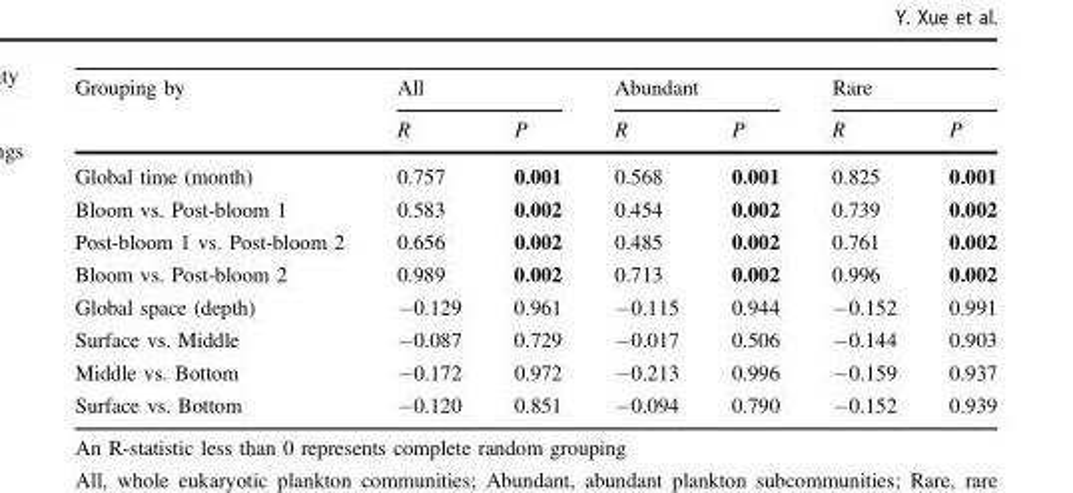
<table><thead><tr><td rowspan="2">Grouping by</td><td colspan="2">All</td><td colspan="2">Abundant</td><td colspan="2">Rare</td></tr><tr><td>R</td><td>P</td><td>R</td><td>P</td><td>R</td><td>P</td></tr></thead><tbody><tr><td>Global time (month)</td><td>0.757</td><td>0.001</td><td>0.568</td><td>0.001</td><td>0.825</td><td>0.001</td></tr><tr><td>Bloom vs. Post-bloom 1</td><td>0.583</td><td>0.002</td><td>0.454</td><td>0.002</td><td>0.739</td><td>0.002</td></tr><tr><td>Post-bloom 1 vs. Post-bloom 2</td><td>0.656</td><td>0.002</td><td>0.485</td><td>0.002</td><td>0.761</td><td>0.002</td></tr><tr><td>Bloom vs. Post-bloom 2</td><td>0.989</td><td>0.002</td><td>0.713</td><td>0.002</td><td>0.996</td><td>0.002</td></tr><tr><td>Global space (depth)</td><td>−0.129</td><td>0.961</td><td>−0.115</td><td>0.944</td><td>−0.152</td><td>0.991</td></tr><tr><td>Surface vs. Middle</td><td>−0.087</td><td>0.729</td><td>−0.017</td><td>0.506</td><td>−0.144</td><td>0.903</td></tr><tr><td>Middle vs. Bottom</td><td>−0.172</td><td>0.972</td><td>−0.213</td><td>0.996</td><td>−0.159</td><td>0.937</td></tr><tr><td>Surface vs. Bottom</td><td>−0.120</td><td>0.851</td><td>−0.094</td><td>0.790</td><td>−0.152</td><td>0.939</td></tr></tbody></table>